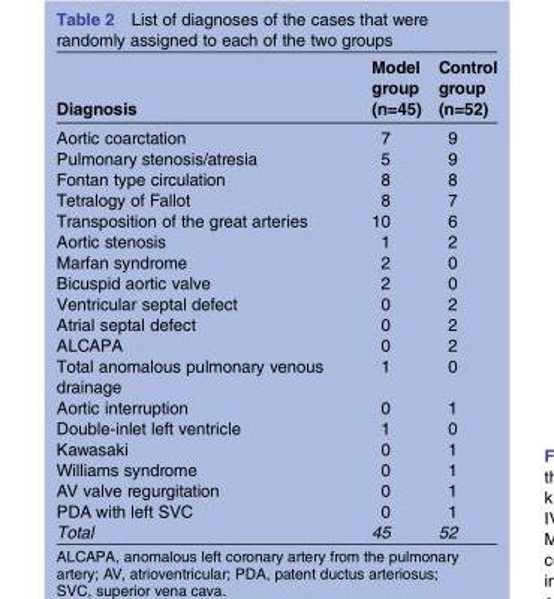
<table><thead><tr><td>Diagnosis</td><td>Model group (n=45)</td><td>Control group (n=52)</td></tr></thead><tbody><tr><td>Aortic coarctation</td><td>7</td><td>9</td></tr><tr><td>Pulmonary stenosis/atresia</td><td>5</td><td>9</td></tr><tr><td>Fontan type circulation</td><td>8</td><td>8</td></tr><tr><td>Tetralogy of Fallot</td><td>8</td><td>7</td></tr><tr><td>Transposition of the great arteries</td><td>10</td><td>6</td></tr><tr><td>Aortic stenosis</td><td>1</td><td>2</td></tr><tr><td>Marfan syndrome</td><td>2</td><td>0</td></tr><tr><td>Bicuspid aortic valve</td><td>2</td><td>0</td></tr><tr><td>Ventricular septal defect</td><td>0</td><td>2</td></tr><tr><td>Atrial septal defect</td><td>0</td><td>2</td></tr><tr><td>ALCAPA</td><td>0</td><td>2</td></tr><tr><td>Total anomalous pulmonary venous drainage</td><td>1</td><td>0</td></tr><tr><td>Aortic interruption</td><td>0</td><td>1</td></tr><tr><td>Double-inlet left ventricle</td><td>1</td><td>0</td></tr><tr><td>Kawasaki</td><td>0</td><td>1</td></tr><tr><td>Williams syndrome</td><td>0</td><td>1</td></tr><tr><td>AV valve regurgitation</td><td>0</td><td>1</td></tr><tr><td>PDA with left SVC</td><td>0</td><td>1</td></tr><tr><td>Total</td><td>45</td><td>52</td></tr></tbody></table>